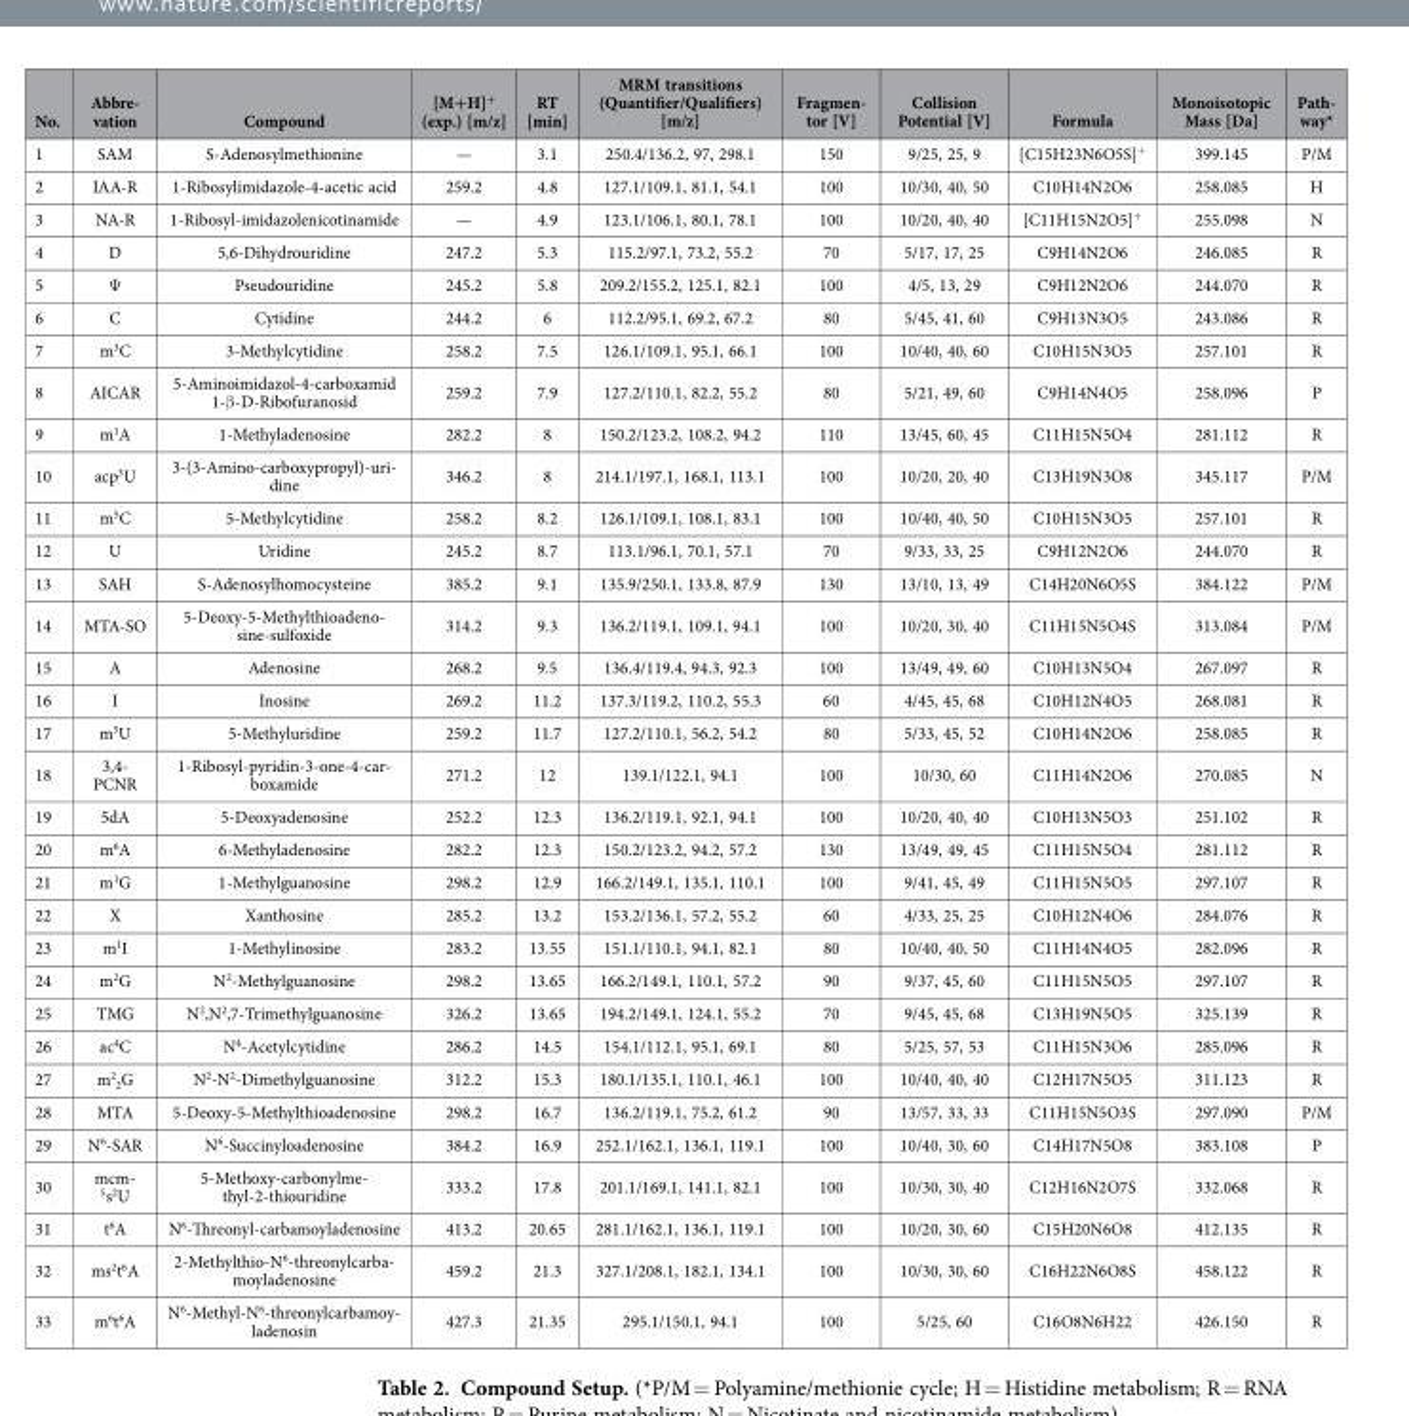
<table><thead><tr><td>No.</td><td>Abbre- vation</td><td>Compound</td><td>[M+H]<sup>+</sup> (exp.) [m/z]</td><td>RT [min]</td><td>MRM transitions (Quantifier/Qualifiers) [m/z]</td><td>Fragmen- tor [V]</td><td>Collision Potential [V]</td><td>Formula</td><td>Monoisotopic Mass [Da]</td><td>Path- way*</td></tr></thead><tbody><tr><td>1</td><td>SAM</td><td>S-Adenosylmethionine</td><td>—</td><td>3.1</td><td>250.4/136.2, 97, 298.1</td><td>150</td><td>9/25, 25, 9</td><td>[C15H23N6O5S]<sup>+</sup></td><td>399.145</td><td>P/M</td></tr><tr><td>2</td><td>IAA-R</td><td>1-Ribosylimidazole-4-acetic acid</td><td>259.2</td><td>4.8</td><td>127.1/109.1, 81.1, 54.1</td><td>100</td><td>10/30, 40, 50</td><td>C10H14N2O6</td><td>258.085</td><td>H</td></tr><tr><td>3</td><td>NA-R</td><td>1-Ribosyl-imidazolenicotinamide</td><td>—</td><td>4.9</td><td>123.1/106.1, 80.1, 78.1</td><td>100</td><td>10/20, 40, 40</td><td>[C11H15N2O5]<sup>+</sup></td><td>255.098</td><td>N</td></tr><tr><td>4</td><td>D</td><td>5,6-Dihydrouridine</td><td>247.2</td><td>5.3</td><td>115.2/97.1, 73.2, 55.2</td><td>70</td><td>5/17, 17, 25</td><td>C9H14N2O6</td><td>246.085</td><td>R</td></tr><tr><td>5</td><td>Ψ</td><td>Pseudouridine</td><td>245.2</td><td>5.8</td><td>209.2/155.2, 125.1, 82.1</td><td>100</td><td>4/5, 13, 29</td><td>C9H12N2O6</td><td>244.070</td><td>R</td></tr><tr><td>6</td><td>C</td><td>Cytidine</td><td>244.2</td><td>6</td><td>112.2/95.1, 69.2, 67.2</td><td>80</td><td>5/45, 41, 60</td><td>C9H13N3O5</td><td>243.086</td><td>R</td></tr><tr><td>7</td><td>m<sup>3</sup>C</td><td>3-Methylcytidine</td><td>258.2</td><td>7.5</td><td>126.1/109.1, 95.1, 66.1</td><td>100</td><td>10/40, 40, 60</td><td>C10H15N3O5</td><td>257.101</td><td>R</td></tr><tr><td>8</td><td>AICAR</td><td>5-Aminoimidazol-4-carboxamid 1-β -D-Ribofuranosid</td><td>259.2</td><td>7.9</td><td>127.2/110.1, 82.2, 55.2</td><td>80</td><td>5/21, 49, 60</td><td>C9H14N4O5</td><td>258.096</td><td>P</td></tr><tr><td>9</td><td>m<sup>1</sup>A</td><td>1-Methyladenosine</td><td>282.2</td><td>8</td><td>150.2/123.2, 108.2, 94.2</td><td>110</td><td>13/45, 60, 45</td><td>C11H15N5O4</td><td>281.112</td><td>R</td></tr><tr><td>10</td><td>acp<sup>3</sup>U</td><td>3-(3-Amino-carboxypropyl)-uri- dine</td><td>346.2</td><td>8</td><td>214.1/197.1, 168.1, 113.1</td><td>100</td><td>10/20, 20, 40</td><td>C13H19N3O8</td><td>345.117</td><td>P/M</td></tr><tr><td>11</td><td>m<sup>5</sup>C</td><td>5-Methylcytidine</td><td>258.2</td><td>8.2</td><td>126.1/109.1, 108.1, 83.1</td><td>100</td><td>10/40, 40, 50</td><td>C10H15N3O5</td><td>257.101</td><td>R</td></tr><tr><td>12</td><td>U</td><td>Uridine</td><td>245.2</td><td>8.7</td><td>113.1/96.1, 70.1, 57.1</td><td>70</td><td>9/33, 33, 25</td><td>C9H12N2O6</td><td>244.070</td><td>R</td></tr><tr><td>13</td><td>SAH</td><td>S-Adenosylhomocysteine</td><td>385.2</td><td>9.1</td><td>135.9/250.1, 133.8, 87.9</td><td>130</td><td>13/10, 13, 49</td><td>C14H20N6O5S</td><td>384.122</td><td>P/M</td></tr><tr><td>14</td><td>MTA-SO</td><td>5-Deoxy-5-Methylthioadeno- sine-sulfoxide</td><td>314.2</td><td>9.3</td><td>136.2/119.1, 109.1, 94.1</td><td>100</td><td>10/20, 30, 40</td><td>C11H15N5O4S</td><td>313.084</td><td>P/M</td></tr><tr><td>15</td><td>A</td><td>Adenosine</td><td>268.2</td><td>9.5</td><td>136.4/119.4, 94.3, 92.3</td><td>100</td><td>13/49, 49, 60</td><td>C10H13N5O4</td><td>267.097</td><td>R</td></tr><tr><td>16</td><td>I</td><td>Inosine</td><td>269.2</td><td>11.2</td><td>137.3/119.2, 110.2, 55.3</td><td>60</td><td>4/45, 45, 68</td><td>C10H12N4O5</td><td>268.081</td><td>R</td></tr><tr><td>17</td><td>m<sup>5</sup>U</td><td>5-Methyluridine</td><td>259.2</td><td>11.7</td><td>127.2/110.1, 56.2, 54.2</td><td>80</td><td>5/33, 45, 52</td><td>C10H14N2O6</td><td>258.085</td><td>R</td></tr><tr><td>18</td><td>3,4- PCNR</td><td>1-Ribosyl-pyridin-3-one-4-car- boxamide</td><td>271.2</td><td>12</td><td>139.1/122.1, 94.1</td><td>100</td><td>10/30, 60</td><td>C11H14N2O6</td><td>270.085</td><td>N</td></tr><tr><td>19</td><td>5dA</td><td>5-Deoxyadenosine</td><td>252.2</td><td>12.3</td><td>136.2/119.1, 92.1, 94.1</td><td>100</td><td>10/20, 40, 40</td><td>C10H13N5O3</td><td>251.102</td><td>R</td></tr><tr><td>20</td><td>m<sup>6</sup>A</td><td>6-Methyladenosine</td><td>282.2</td><td>12.3</td><td>150.2/123.2, 94.2, 57.2</td><td>130</td><td>13/49, 49, 45</td><td>C11H15N5O4</td><td>281.112</td><td>R</td></tr><tr><td>21</td><td>m<sup>1</sup>G</td><td>1-Methylguanosine</td><td>298.2</td><td>12.9</td><td>166.2/149.1, 135.1, 110.1</td><td>100</td><td>9/41, 45, 49</td><td>C11H15N5O5</td><td>297.107</td><td>R</td></tr><tr><td>22</td><td>X</td><td>Xanthosine</td><td>285.2</td><td>13.2</td><td>153.2/136.1, 57.2, 55.2</td><td>60</td><td>4/33, 25, 25</td><td>C10H12N4O6</td><td>284.076</td><td>R</td></tr><tr><td>23</td><td>m<sup>1</sup>I</td><td>1-Methylinosine</td><td>283.2</td><td>13.55</td><td>151.1/110.1, 94.1, 82.1</td><td>80</td><td>10/40, 40, 50</td><td>C11H14N4O5</td><td>282.096</td><td>R</td></tr><tr><td>24</td><td>m<sup>2</sup>G</td><td>N<sup>2</sup>-Methylguanosine</td><td>298.2</td><td>13.65</td><td>166.2/149.1, 110.1, 57.2</td><td>90</td><td>9/37, 45, 60</td><td>C11H15N5O5</td><td>297.107</td><td>R</td></tr><tr><td>25</td><td>TMG</td><td>N<sup>2</sup>,N<sup>2</sup>,7-Trimethylguanosine</td><td>326.2</td><td>13.65</td><td>194.2/149.1, 124.1, 55.2</td><td>70</td><td>9/45, 45, 68</td><td>C13H19N5O5</td><td>325.139</td><td>R</td></tr><tr><td>26</td><td>ac<sup>4</sup>C</td><td>N<sup>4</sup>-Acetylcytidine</td><td>286.2</td><td>14.5</td><td>154.1/112.1, 95.1, 69.1</td><td>80</td><td>5/25, 57, 53</td><td>C11H15N3O6</td><td>285.096</td><td>R</td></tr><tr><td>27</td><td>m<sup>2</sup> <sub>2</sub>G</td><td>N<sup>2</sup>-N<sup>2</sup>-Dimethylguanosine</td><td>312.2</td><td>15.3</td><td>180.1/135.1, 110.1, 46.1</td><td>100</td><td>10/40, 40, 40</td><td>C12H17N5O5</td><td>311.123</td><td>R</td></tr><tr><td>28</td><td>MTA</td><td>5-Deoxy-5-Methylthioadenosine</td><td>298.2</td><td>16.7</td><td>136.2/119.1, 75.2, 61.2</td><td>90</td><td>13/57, 33, 33</td><td>C11H15N5O3S</td><td>297.090</td><td>P/M</td></tr><tr><td>29</td><td>N<sup>6</sup>-SAR</td><td>N<sup>6</sup>-Succinyloadenosine</td><td>384.2</td><td>16.9</td><td>252.1/162.1, 136.1, 119.1</td><td>100</td><td>10/40, 30, 60</td><td>C14H17N5O8</td><td>383.108</td><td>P</td></tr><tr><td>30</td><td>mcm- 5s2U</td><td>5-Methoxy-carbonylme- thyl-2-thiouridine</td><td>333.2</td><td>17.8</td><td>201.1/169.1, 141.1, 82.1</td><td>100</td><td>10/30, 30, 40</td><td>C12H16N2O7S</td><td>332.068</td><td>R</td></tr><tr><td>31</td><td>t<sup>6</sup>A</td><td>N<sup>6</sup>-Threonyl-carbamoyladenosine</td><td>413.2</td><td>20.65</td><td>281.1/162.1, 136.1, 119.1</td><td>100</td><td>10/20, 30, 60</td><td>C15H20N6O8</td><td>412.135</td><td>R</td></tr><tr><td>32</td><td>ms<sup>2</sup>t<sup>6</sup>A</td><td>2-Methylthio-N6-threonylcarba- moyladenosine</td><td>459.2</td><td>21.3</td><td>327.1/208.1, 182.1, 134.1</td><td>100</td><td>10/30, 30, 60</td><td>C16H22N6O8S</td><td>458.122</td><td>R</td></tr><tr><td>33</td><td>m<sup>6</sup>t<sup>6</sup>A</td><td>N6-Methyl-N6-threonylcarbamoy- ladenosin</td><td>427.3</td><td>21.35</td><td>295.1/150.1, 94.1</td><td>100</td><td>5/25, 60</td><td>C16O8N6H22</td><td>426.150</td><td>R</td></tr></tbody></table>